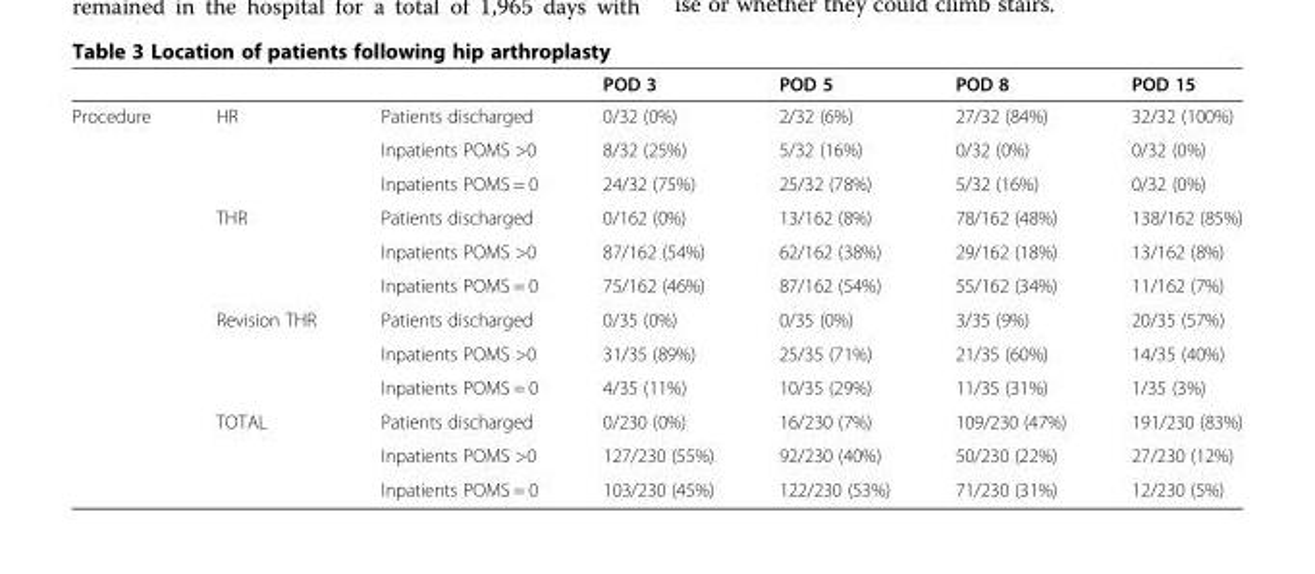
<table><thead><tr><td></td><td></td><td></td><td>POD 3</td><td>POD 5</td><td>POD 8</td><td>POD 15</td></tr></thead><tbody><tr><td rowspan="12">Procedure</td><td rowspan="3">HR</td><td>Patients discharged</td><td>0/32 (0%)</td><td>2/32 (6%)</td><td>27/32 (84%)</td><td>32/32 (100%)</td></tr><tr><td>Inpatients POMS &gt;0</td><td>8/32 (25%)</td><td>5/32 (16%)</td><td>0/32 (0%)</td><td>0/32 (0%)</td></tr><tr><td>Inpatients POMS = 0</td><td>24/32 (75%)</td><td>25/32 (78%)</td><td>5/32 (16%)</td><td>0/32 (0%)</td></tr><tr><td rowspan="3">THR</td><td>Patients discharged</td><td>0/162 (0%)</td><td>13/162 (8%)</td><td>78/162 (48%)</td><td>138/162 (85%)</td></tr><tr><td>Inpatients POMS &gt;0</td><td>87/162 (54%)</td><td>62/162 (38%)</td><td>29/162 (18%)</td><td>13/162 (8%)</td></tr><tr><td>Inpatients POMS = 0</td><td>75/162 (46%)</td><td>87/162 (54%)</td><td>55/162 (34%)</td><td>11/162 (7%)</td></tr><tr><td rowspan="3">Revision THR</td><td>Patients discharged</td><td>0/35 (0%)</td><td>0/35 (0%)</td><td>3/35 (9%)</td><td>20/35 (57%)</td></tr><tr><td>Inpatients POMS &gt;0</td><td>31/35 (89%)</td><td>25/35 (71%)</td><td>21/35 (60%)</td><td>14/35 (40%)</td></tr><tr><td>Inpatients POMS = 0</td><td>4/35 (11%)</td><td>10/35 (29%)</td><td>11/35 (31%)</td><td>1/35 (3%)</td></tr><tr><td rowspan="3">TOTAL</td><td>Patients discharged</td><td>0/230 (0%)</td><td>16/230 (7%)</td><td>109/230 (47%)</td><td>191/230 (83%)</td></tr><tr><td>Inpatients POMS &gt;0</td><td>127/230 (55%)</td><td>92/230 (40%)</td><td>50/230 (22%)</td><td>27/230 (12%)</td></tr><tr><td>Inpatients POMS = 0</td><td>103/230 (45%)</td><td>122/230 (53%)</td><td>71/230 (31%)</td><td>12/230 (5%)</td></tr></tbody></table>